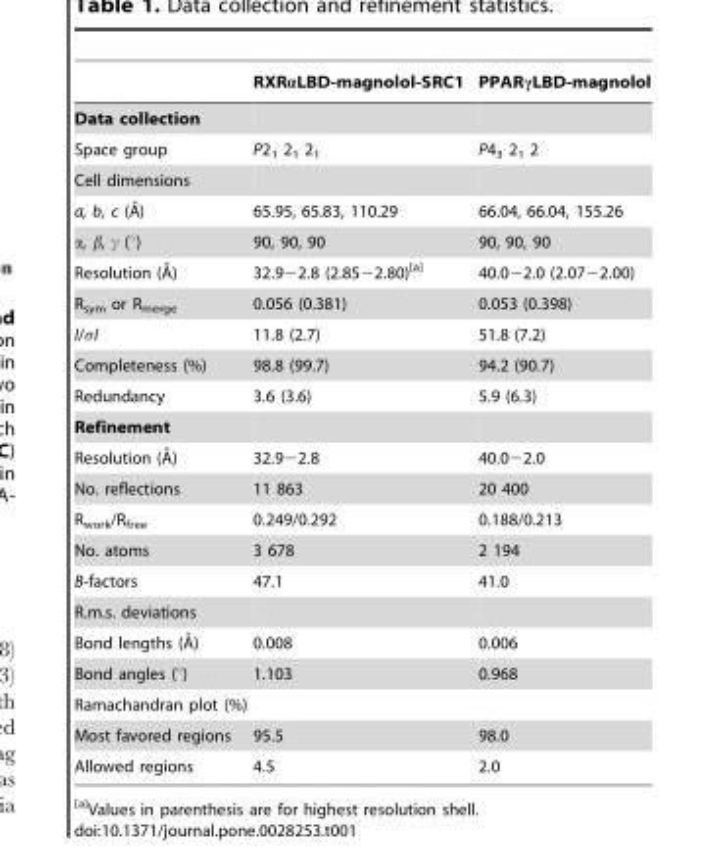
<table><thead><tr><td></td><td>RXRαLBD-magnolol-SRC1</td><td>PPARγLBD-magnolol</td></tr></thead><tbody><tr><td colspan="3">Data collection</td></tr><tr><td>Space group</td><td>P2<sub>1</sub> 2<sub>1</sub> 2<sub>1</sub></td><td>P4<sub>3</sub> 2<sub>1</sub> 2</td></tr><tr><td colspan="3">Cell dimensions</td></tr><tr><td>a, b, c (A˚)</td><td>65.95, 65.83, 110.29</td><td>66.04, 66.04, 155.26</td></tr><tr><td>α, β, γ (°)</td><td>90, 90, 90</td><td>90, 90, 90</td></tr><tr><td>Resolution (A˚)</td><td>32.9−2.8 (2.85−2.80)[a]</td><td>40.0−2.0 (2.07−2.00)</td></tr><tr><td>R<sub>sym</sub> or R<sub>merge</sub></td><td>0.056 (0.381)</td><td>0.053 (0.398)</td></tr><tr><td>I/σI</td><td>11.8 (2.7)</td><td>51.8 (7.2)</td></tr><tr><td>Completeness (%)</td><td>98.8 (99.7)</td><td>94.2 (90.7)</td></tr><tr><td>Redundancy</td><td>3.6 (3.6)</td><td>5.9 (6.3)</td></tr><tr><td colspan="3">Refinement</td></tr><tr><td>Resolution (A˚)</td><td>32.9−2.8</td><td>40.0−2.0</td></tr><tr><td>No. reflections</td><td>11 863</td><td>20 400</td></tr><tr><td>R<sub>work</sub>/R<sub>free</sub></td><td>0.249/0.292</td><td>0.188/0.213</td></tr><tr><td>No. atoms</td><td>3 678</td><td>2 194</td></tr><tr><td>B-factors</td><td>47.1</td><td>41.0</td></tr><tr><td colspan="3">R.m.s. deviations</td></tr><tr><td>Bond lengths (A˚)</td><td>0.008</td><td>0.006</td></tr><tr><td>Bond angles (°)</td><td>1.103</td><td>0.968</td></tr><tr><td colspan="3">Ramachandran plot (%)</td></tr><tr><td>Most favored regions</td><td>95.5</td><td>98.0</td></tr><tr><td>Allowed regions</td><td>4.5</td><td>2.0</td></tr></tbody></table>